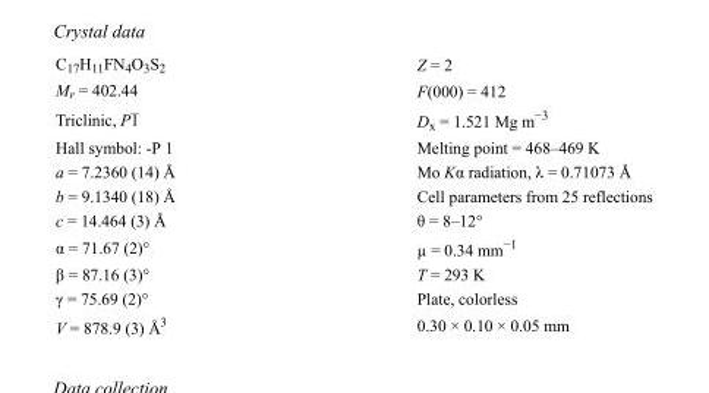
<table><tbody><tr><td>C<sub>17</sub>H<sub>11</sub>FN<sub>4</sub>O<sub>3</sub>S<sub>2</sub></td><td>Z = 2</td></tr><tr><td>M<sub>r</sub> = 402.44</td><td>F(000) = 412</td></tr><tr><td>Triclinic, P1</td><td>D<sub>x</sub> = 1.521 Mg m<sup>−3</sup></td></tr><tr><td>Hall symbol: -P 1</td><td>Melting point = 468–469 K</td></tr><tr><td>a = 7.2360 (14) Å</td><td>Mo Kα radiation, λ = 0.71073 Å</td></tr><tr><td>b = 9.1340 (18) Å</td><td>Cell parameters from 25 reflections</td></tr><tr><td>c = 14.464 (3) Å</td><td>θ = 8–12°</td></tr><tr><td>α = 71.67 (2)°</td><td>µ = 0.34 mm<sup>−1</sup></td></tr><tr><td>β = 87.16 (3)°</td><td>T = 293 K</td></tr><tr><td>γ = 75.69 (2)°</td><td>Plate, colorless</td></tr><tr><td>V = 878.9 (3) Å<sup>3</sup></td><td>0.30 × 0.10 × 0.05 mm</td></tr></tbody></table>